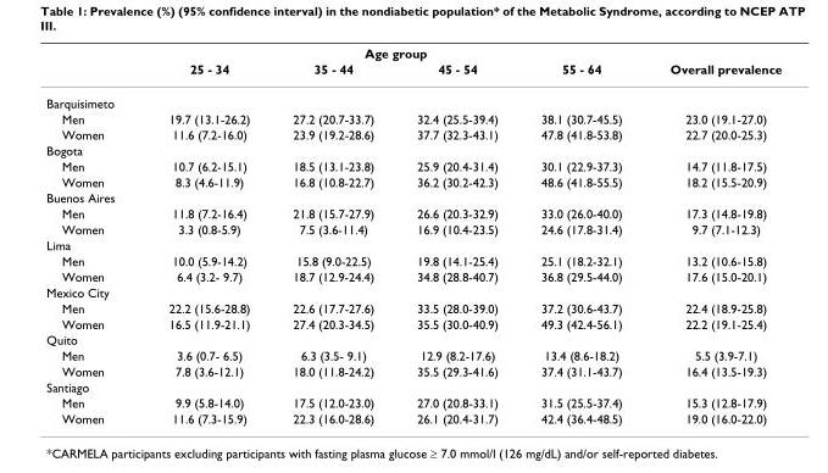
<table><thead><tr><td rowspan="2"></td><td colspan="4">Age group</td><td rowspan="2">Overall prevalence</td></tr><tr><td>25 - 34</td><td>35 - 44</td><td>45 - 54</td><td>55 - 64</td></tr></thead><tbody><tr><td colspan="6">Barquisimeto</td></tr><tr><td>Men</td><td>19.7 (13.1-26.2)</td><td>27.2 (20.7-33.7)</td><td>32.4 (25.5-39.4)</td><td>38.1 (30.7-45.5)</td><td>23.0 (19.1-27.0)</td></tr><tr><td>Women</td><td>11.6 (7.2-16.0)</td><td>23.9 (19.2-28.6)</td><td>37.7 (32.3-43.1)</td><td>47.8 (41.8-53.8)</td><td>22.7 (20.0-25.3)</td></tr><tr><td colspan="6">Bogota</td></tr><tr><td>Men</td><td>10.7 (6.2-15.1)</td><td>18.5 (13.1-23.8)</td><td>25.9 (20.4-31.4)</td><td>30.1 (22.9-37.3)</td><td>14.7 (11.8-17.5)</td></tr><tr><td>Women</td><td>8.3 (4.6-11.9)</td><td>16.8 (10.8-22.7)</td><td>36.2 (30.2-42.3)</td><td>48.6 (41.8-55.5)</td><td>18.2 (15.5-20.9)</td></tr><tr><td colspan="6">Buenos Aires</td></tr><tr><td>Men</td><td>11.8 (7.2-16.4)</td><td>21.8 (15.7-27.9)</td><td>26.6 (20.3-32.9)</td><td>33.0 (26.0-40.0)</td><td>17.3 (14.8-19.8)</td></tr><tr><td>Women</td><td>3.3 (0.8-5.9)</td><td>7.5 (3.6-11.4)</td><td>16.9 (10.4-23.5)</td><td>24.6 (17.8-31.4)</td><td>9.7 (7.1-12.3)</td></tr><tr><td colspan="6">Lima</td></tr><tr><td>Men</td><td>10.0 (5.9-14.2)</td><td>15.8 (9.0-22.5)</td><td>19.8 (14.1-25.4)</td><td>25.1 (18.2-32.1)</td><td>13.2 (10.6-15.8)</td></tr><tr><td>Women</td><td>6.4 (3.2- 9.7)</td><td>18.7 (12.9-24.4)</td><td>34.8 (28.8-40.7)</td><td>36.8 (29.5-44.0)</td><td>17.6 (15.0-20.1)</td></tr><tr><td colspan="6">Mexico City</td></tr><tr><td>Men</td><td>22.2 (15.6-28.8)</td><td>22.6 (17.7-27.6)</td><td>33.5 (28.0-39.0)</td><td>37.2 (30.6-43.7)</td><td>22.4 (18.9-25.8)</td></tr><tr><td>Women</td><td>16.5 (11.9-21.1)</td><td>27.4 (20.3-34.5)</td><td>35.5 (30.0-40.9)</td><td>49.3 (42.4-56.1)</td><td>22.2 (19.1-25.4)</td></tr><tr><td colspan="6">Quito</td></tr><tr><td>Men</td><td>3.6 (0.7- 6.5)</td><td>6.3 (3.5- 9.1)</td><td>12.9 (8.2-17.6)</td><td>13.4 (8.6-18.2)</td><td>5.5 (3.9-7.1)</td></tr><tr><td>Women</td><td>7.8 (3.6-12.1)</td><td>18.0 (11.8-24.2)</td><td>35.5 (29.3-41.6)</td><td>37.4 (31.1-43.7)</td><td>16.4 (13.5-19.3)</td></tr><tr><td colspan="6">Santiago</td></tr><tr><td>Men</td><td>9.9 (5.8-14.0)</td><td>17.5 (12.0-23.0)</td><td>27.0 (20.8-33.1)</td><td>31.5 (25.5-37.4)</td><td>15.3 (12.8-17.9)</td></tr><tr><td>Women</td><td>11.6 (7.3-15.9)</td><td>22.3 (16.0-28.6)</td><td>26.1 (20.4-31.7)</td><td>42.4 (36.4-48.5)</td><td>19.0 (16.0-22.0)</td></tr></tbody></table>